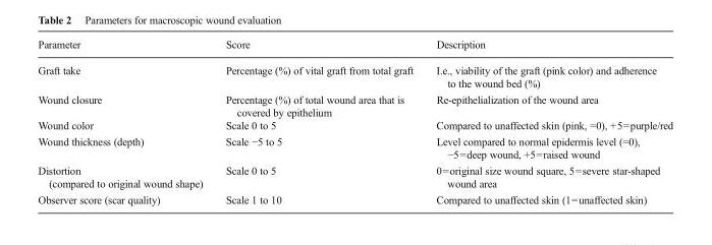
<table><thead><tr><td>Parameter</td><td>Score</td><td>Description</td></tr></thead><tbody><tr><td>Graft take</td><td>Percentage (%) of vital graft from total graft</td><td>I.e., viability of the graft (pink color) and adherence to the wound bed (%)</td></tr><tr><td>Wound closure</td><td>Percentage (%) of total wound area that is covered by epithelium</td><td>Re-epithelialization of the wound area</td></tr><tr><td>Wound color</td><td>Scale 0 to 5</td><td>Compared to unaffected skin (pink, =0), +5=purple/red</td></tr><tr><td>Wound thickness (depth)</td><td>Scale −5 to 5</td><td>Level compared to normal epidermis level (=0), −5=deep wound, +5=raised wound</td></tr><tr><td>Distortion (compared to original wound shape)</td><td>Scale 0 to 5</td><td>0=original size wound square, 5=severe star-shaped wound area</td></tr><tr><td>Observer score (scar quality)</td><td>Scale 1 to 10</td><td>Compared to unaffected skin (1=unaffected skin)</td></tr></tbody></table>